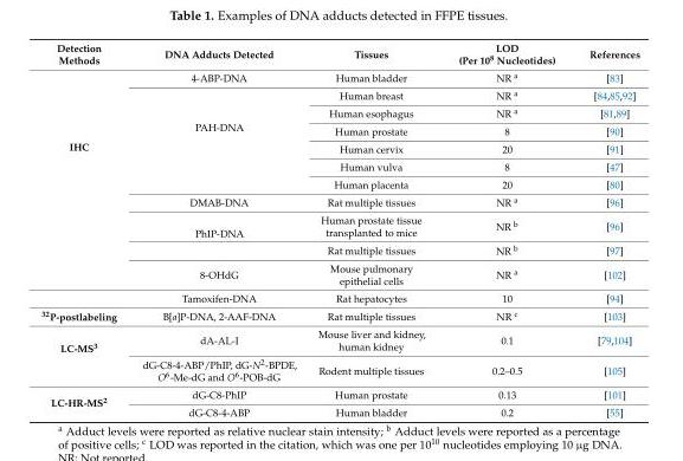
<table><thead><tr><td>Detection Methods</td><td>DNA Adducts Detected</td><td>Tissues</td><td>LOD (Per 10<sup>8</sup> Nucleotides)</td><td>References</td></tr></thead><tbody><tr><td rowspan="12">IHC</td><td>4-ABP-DNA</td><td>Human bladder</td><td>NR <sup>a</sup></td><td>[83]</td></tr><tr><td rowspan="6">PAH-DNA</td><td>Human breast</td><td>NR <sup>a</sup></td><td>[84,85,92]</td></tr><tr><td>Human esophagus</td><td>NR <sup>a</sup></td><td>[81,89]</td></tr><tr><td>Human prostate</td><td>8</td><td>[90]</td></tr><tr><td>Human cervix</td><td>20</td><td>[91]</td></tr><tr><td>Human vulva</td><td>8</td><td>[47]</td></tr><tr><td>Human placenta</td><td>20</td><td>[80]</td></tr><tr><td>DMAB-DNA</td><td>Rat multiple tissues</td><td>NR <sup>a</sup></td><td>[96]</td></tr><tr><td rowspan="2">PhIP-DNA</td><td>Human prostate tissue transplanted to mice</td><td>NR <sup>b</sup></td><td>[96]</td></tr><tr><td>Rat multiple tissues</td><td>NR <sup>b</sup></td><td>[97]</td></tr><tr><td>8-OHdG</td><td>Mouse pulmonary epithelial cells</td><td>NR <sup>a</sup></td><td>[102]</td></tr><tr><td>Tamoxifen-DNA</td><td>Rat hepatocytes</td><td>10</td><td>[94]</td></tr><tr><td><sup>32</sup>P-postlabeling</td><td>B[a]P-DNA, 2-AAF-DNA</td><td>Rat multiple tissues</td><td>NR <sup>c</sup></td><td>[103]</td></tr><tr><td rowspan="2">LC-MS<sup>3</sup></td><td>dA-AL-I</td><td>Mouse liver and kidney, human kidney</td><td>0.1</td><td>[79,104]</td></tr><tr><td>dG-C8-4-ABP/PhIP, dG-N<sup>2</sup>-BPDE, O<sup>6</sup>-Me-dG and O<sup>6</sup>-POB-dG</td><td>Rodent multiple tissues</td><td>0.2–0.5</td><td>[105]</td></tr><tr><td rowspan="2">LC-HR-MS<sup>2</sup></td><td>dG-C8-PhIP</td><td>Human prostate</td><td>0.13</td><td>[101]</td></tr><tr><td>dG-C8-4-ABP</td><td>Human bladder</td><td>0.2</td><td>[55]</td></tr></tbody></table>